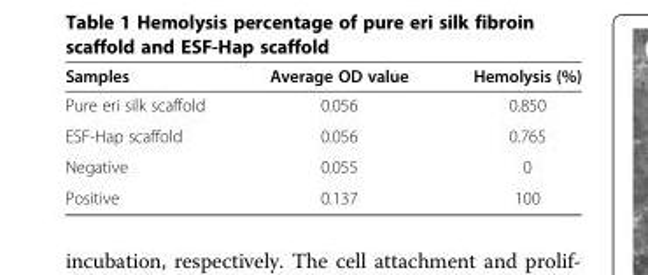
<table><thead><tr><td>Samples</td><td>Average OD value</td><td>Hemolysis (%)</td></tr></thead><tbody><tr><td>Pure eri silk scaffold</td><td>0.056</td><td>0.850</td></tr><tr><td>ESF-Hap scaffold</td><td>0.056</td><td>0.765</td></tr><tr><td>Negative</td><td>0.055</td><td>0</td></tr><tr><td>Positive</td><td>0.137</td><td>100</td></tr></tbody></table>